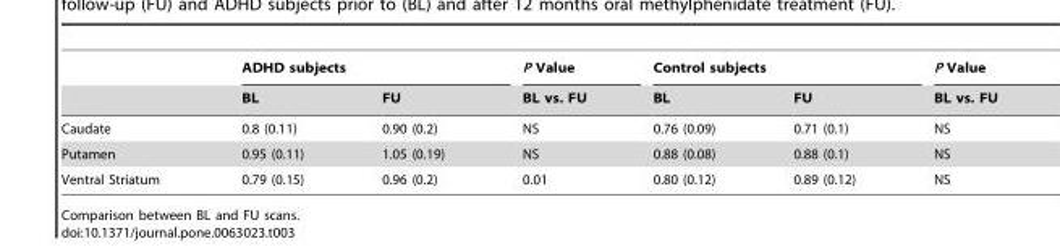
<table><thead><tr><td rowspan="2"></td><td colspan="2">ADHD subjects</td><td rowspan="2">P Value BL vs. FU</td><td colspan="2">Control subjects</td><td rowspan="2">P Value BL vs. FU</td></tr><tr><td>BL</td><td>FU</td><td>BL</td><td>FU</td></tr></thead><tbody><tr><td>Caudate</td><td>0.8 (0.11)</td><td>0.90 (0.2)</td><td>NS</td><td>0.76 (0.09)</td><td>0.71 (0.1)</td><td>NS</td></tr><tr><td>Putamen</td><td>0.95 (0.11)</td><td>1.05 (0.19)</td><td>NS</td><td>0.88 (0.08)</td><td>0.88 (0.1)</td><td>NS</td></tr><tr><td>Ventral Striatum</td><td>0.79 (0.15)</td><td>0.96 (0.2)</td><td>0.01</td><td>0.80 (0.12)</td><td>0.89 (0.12)</td><td>NS</td></tr></tbody></table>